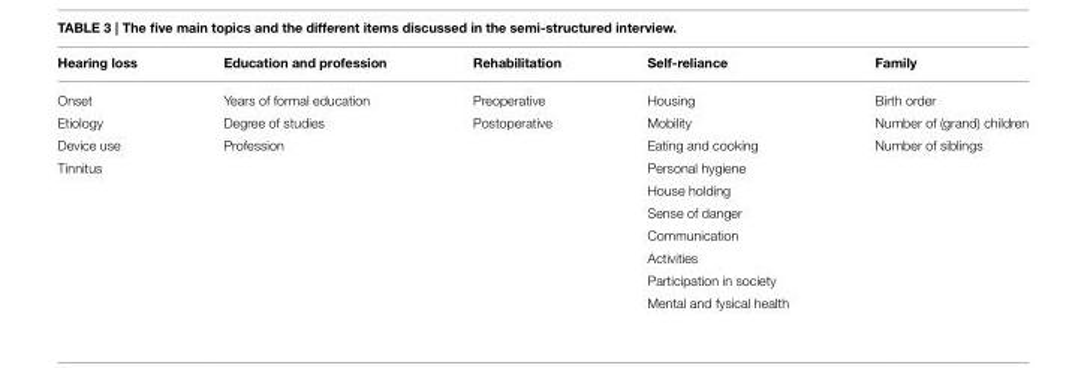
<table><thead><tr><td>Hearing loss</td><td>Education and profession</td><td>Rehabilitation</td><td>Self-reliance</td><td>Family</td></tr></thead><tbody><tr><td>Onset</td><td>Years of formal education</td><td>Preoperative</td><td>Housing</td><td>Birth order</td></tr><tr><td>Etiology</td><td>Degree of studies</td><td>Postoperative</td><td>Mobility</td><td>Number of (grand) children</td></tr><tr><td>Device use</td><td>Profession</td><td></td><td>Eating and cooking</td><td>Number of siblings</td></tr><tr><td rowspan="7">Tinnitus</td><td></td><td></td><td>Personal hygiene</td><td></td></tr><tr><td></td><td></td><td>House holding</td><td></td></tr><tr><td></td><td></td><td>Sense of danger</td><td></td></tr><tr><td></td><td></td><td>Communication</td><td></td></tr><tr><td></td><td></td><td>Activities</td><td></td></tr><tr><td></td><td></td><td>Participation in society</td><td></td></tr><tr><td></td><td></td><td>Mental and fysical health</td><td></td></tr></tbody></table>